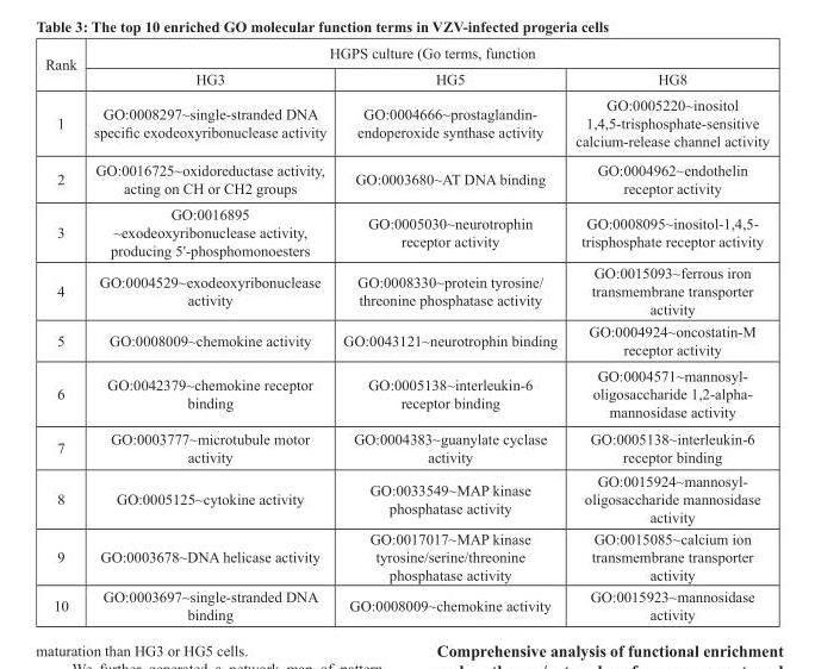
<table><thead><tr><td rowspan="2">Rank</td><td colspan="3">HGPS culture (Go terms, function</td></tr><tr><td>HG3</td><td>HG5</td><td>HG8</td></tr></thead><tbody><tr><td>1</td><td>GO:0008297~single-stranded DNA specific exodeoxyribonuclease activity</td><td>GO:0004666~prostaglandin- endoperoxide synthase activity</td><td>GO:0005220~inositol 1,4,5-trisphosphate-sensitive calcium-release channel activity</td></tr><tr><td>2</td><td>GO:0016725~oxidoreductase activity, acting on CH or CH2 groups</td><td>GO:0003680~AT DNA binding</td><td>GO:0004962~endothelin receptor activity</td></tr><tr><td>3</td><td>GO:0016895 ~exodeoxyribonuclease activity, producing 5&#x27;-phosphomonoesters</td><td>GO:0005030~neurotrophin receptor activity</td><td>GO:0008095~inositol-1,4,5- trisphosphate receptor activity</td></tr><tr><td>4</td><td>GO:0004529~exodeoxyribonuclease activity</td><td>GO:0008330~protein tyrosine/ threonine phosphatase activity</td><td>GO:0015093~ferrous iron transmembrane transporter activity</td></tr><tr><td>5</td><td>GO:0008009~chemokine activity</td><td>GO:0043121~neurotrophin binding</td><td>GO:0004924~oncostatin-M receptor activity</td></tr><tr><td>6</td><td>GO:0042379~chemokine receptor binding</td><td>GO:0005138~interleukin-6 receptor binding</td><td>GO:0004571~mannosyl- oligosaccharide 1,2-alpha- mannosidase activity</td></tr><tr><td>7</td><td>GO:0003777~microtubule motor activity</td><td>GO:0004383~guanylate cyclase activity</td><td>GO:0005138~interleukin-6 receptor binding</td></tr><tr><td>8</td><td>GO:0005125~cytokine activity</td><td>GO:0033549~MAP kinase phosphatase activity</td><td>GO:0015924~mannosyl- oligosaccharide mannosidase activity</td></tr><tr><td>9</td><td>GO:0003678~DNA helicase activity</td><td>GO:0017017~MAP kinase tyrosine/serine/threonine phosphatase activity</td><td>GO:0015085~calcium ion transmembrane transporter activity</td></tr><tr><td>10</td><td>GO:0003697~single-stranded DNA binding</td><td>GO:0008009~chemokine activity</td><td>GO:0015923~mannosidase activity</td></tr></tbody></table>